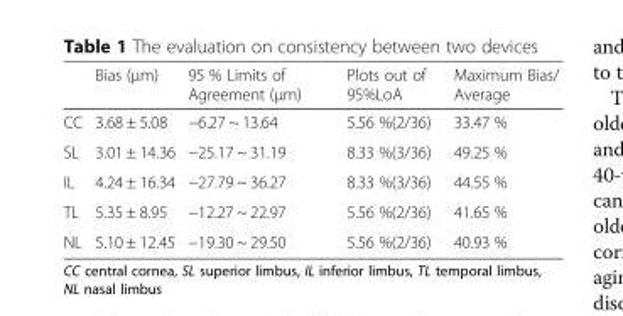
<table><thead><tr><td></td><td>Bias (μm)</td><td>95 % Limits of Agreement (μm)</td><td>Plots out of 95%LoA</td><td>Maximum Bias/ Average</td></tr></thead><tbody><tr><td>CC</td><td>3.68 ± 5.08</td><td>−6.27 ~ 13.64</td><td>5.56 %(2/36)</td><td>33.47 %</td></tr><tr><td>SL</td><td>3.01 ± 14.36</td><td>−25.17 ~ 31.19</td><td>8.33 %(3/36)</td><td>49.25 %</td></tr><tr><td>IL</td><td>4.24 ± 16.34</td><td>−27.79 ~ 36.27</td><td>8.33 %(3/36)</td><td>44.55 %</td></tr><tr><td>TL</td><td>5.35 ± 8.95</td><td>−12.27 ~ 22.97</td><td>5.56 %(2/36)</td><td>41.65 %</td></tr><tr><td>NL</td><td>5.10 ± 12.45</td><td>−19.30 ~ 29.50</td><td>5.56 %(2/36)</td><td>40.93 %</td></tr></tbody></table>